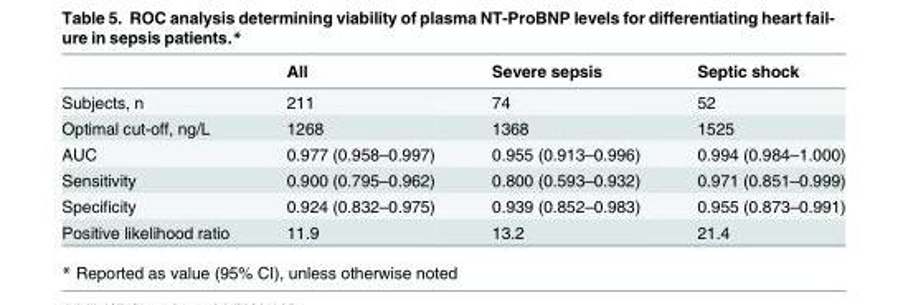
<table><thead><tr><td></td><td>All</td><td>Severe sepsis</td><td>Septic shock</td></tr></thead><tbody><tr><td>Subjects, n</td><td>211</td><td>74</td><td>52</td></tr><tr><td>Optimal cut-off, ng/L</td><td>1268</td><td>1368</td><td>1525</td></tr><tr><td>AUC</td><td>0.977 (0.958–0.997)</td><td>0.955 (0.913–0.996)</td><td>0.994 (0.984–1.000)</td></tr><tr><td>Sensitivity</td><td>0.900 (0.795–0.962)</td><td>0.800 (0.593–0.932)</td><td>0.971 (0.851–0.999)</td></tr><tr><td>Specificity</td><td>0.924 (0.832–0.975)</td><td>0.939 (0.852–0.983)</td><td>0.955 (0.873–0.991)</td></tr><tr><td>Positive likelihood ratio</td><td>11.9</td><td>13.2</td><td>21.4</td></tr></tbody></table>